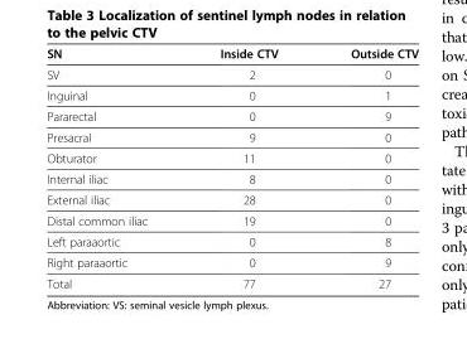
<table><thead><tr><td>SN</td><td>Inside CTV</td><td>Outside CTV</td></tr></thead><tbody><tr><td>SV</td><td>2</td><td>0</td></tr><tr><td>Inguinal</td><td>0</td><td>1</td></tr><tr><td>Pararectal</td><td>0</td><td>9</td></tr><tr><td>Presacral</td><td>9</td><td>0</td></tr><tr><td>Obturator</td><td>11</td><td>0</td></tr><tr><td>Internal iliac</td><td>8</td><td>0</td></tr><tr><td>External iliac</td><td>28</td><td>0</td></tr><tr><td>Distal common iliac</td><td>19</td><td>0</td></tr><tr><td>Left paraaortic</td><td>0</td><td>8</td></tr><tr><td>Right paraaortic</td><td>0</td><td>9</td></tr><tr><td>Total</td><td>77</td><td>27</td></tr></tbody></table>